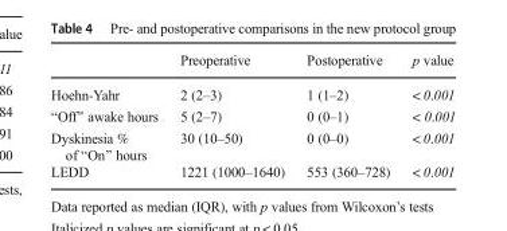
<table><thead><tr><td></td><td>Preoperative</td><td>Postoperative</td><td>p value</td></tr></thead><tbody><tr><td>Hoehn-Yahr</td><td>2 (2–3)</td><td>1 (1–2)</td><td>&lt; 0.001</td></tr><tr><td>“Off” awake hours</td><td>5 (2–7)</td><td>0 (0–1)</td><td>&lt; 0.001</td></tr><tr><td>Dyskinesia % of “On” hours</td><td>30 (10–50)</td><td>0 (0–0)</td><td>&lt; 0.001</td></tr><tr><td>LEDD</td><td>1221 (1000–1640)</td><td>553 (360–728)</td><td>&lt; 0.001</td></tr></tbody></table>